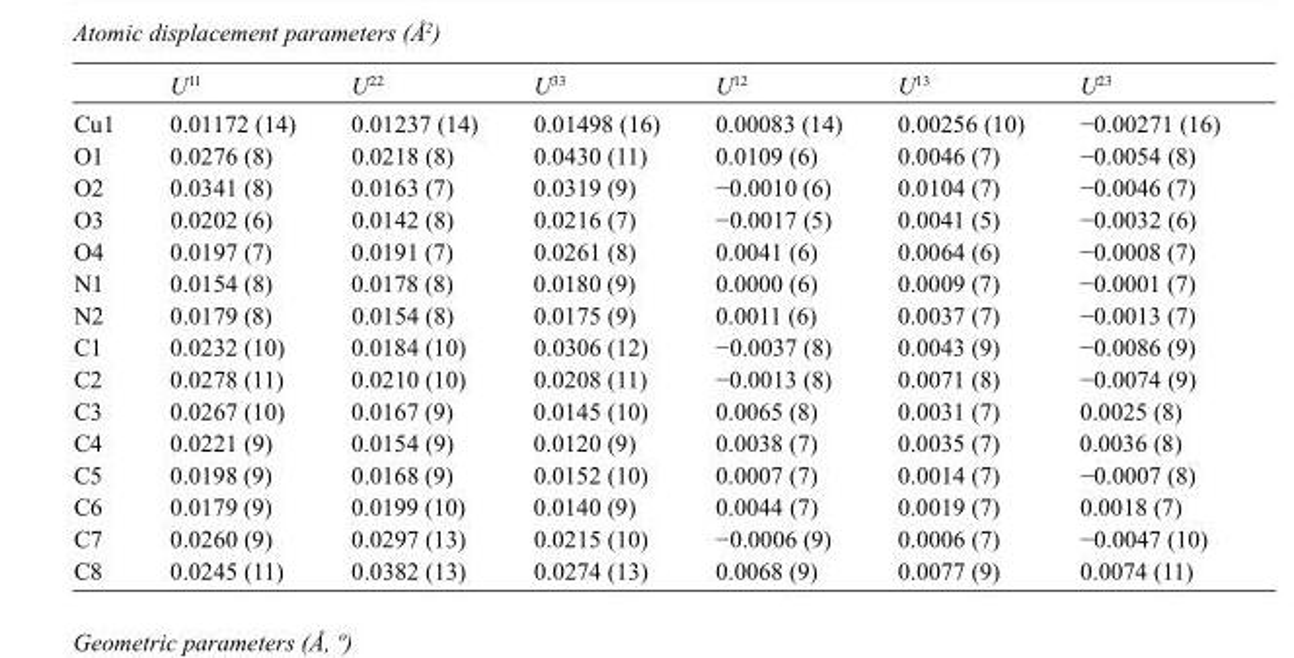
<table><thead><tr><td></td><td>U<sup>11</sup></td><td>U<sup>22</sup></td><td>U<sup>33</sup></td><td>U<sup>12</sup></td><td>U<sup>13</sup></td><td>U<sup>23</sup></td></tr></thead><tbody><tr><td>Cu1</td><td>0.01172 (14)</td><td>0.01237 (14)</td><td>0.01498 (16)</td><td>0.00083 (14)</td><td>0.00256 (10)</td><td>−0.00271 (16)</td></tr><tr><td>O1</td><td>0.0276 (8)</td><td>0.0218 (8)</td><td>0.0430 (11)</td><td>0.0109 (6)</td><td>0.0046 (7)</td><td>−0.0054 (8)</td></tr><tr><td>O2</td><td>0.0341 (8)</td><td>0.0163 (7)</td><td>0.0319 (9)</td><td>−0.0010 (6)</td><td>0.0104 (7)</td><td>−0.0046 (7)</td></tr><tr><td>O3</td><td>0.0202 (6)</td><td>0.0142 (8)</td><td>0.0216 (7)</td><td>−0.0017 (5)</td><td>0.0041 (5)</td><td>−0.0032 (6)</td></tr><tr><td>O4</td><td>0.0197 (7)</td><td>0.0191 (7)</td><td>0.0261 (8)</td><td>0.0041 (6)</td><td>0.0064 (6)</td><td>−0.0008 (7)</td></tr><tr><td>N1</td><td>0.0154 (8)</td><td>0.0178 (8)</td><td>0.0180 (9)</td><td>0.0000 (6)</td><td>0.0009 (7)</td><td>−0.0001 (7)</td></tr><tr><td>N2</td><td>0.0179 (8)</td><td>0.0154 (8)</td><td>0.0175 (9)</td><td>0.0011 (6)</td><td>0.0037 (7)</td><td>−0.0013 (7)</td></tr><tr><td>C1</td><td>0.0232 (10)</td><td>0.0184 (10)</td><td>0.0306 (12)</td><td>−0.0037 (8)</td><td>0.0043 (9)</td><td>−0.0086 (9)</td></tr><tr><td>C2</td><td>0.0278 (11)</td><td>0.0210 (10)</td><td>0.0208 (11)</td><td>−0.0013 (8)</td><td>0.0071 (8)</td><td>−0.0074 (9)</td></tr><tr><td>C3</td><td>0.0267 (10)</td><td>0.0167 (9)</td><td>0.0145 (10)</td><td>0.0065 (8)</td><td>0.0031 (7)</td><td>0.0025 (8)</td></tr><tr><td>C4</td><td>0.0221 (9)</td><td>0.0154 (9)</td><td>0.0120 (9)</td><td>0.0038 (7)</td><td>0.0035 (7)</td><td>0.0036 (8)</td></tr><tr><td>C5</td><td>0.0198 (9)</td><td>0.0168 (9)</td><td>0.0152 (10)</td><td>0.0007 (7)</td><td>0.0014 (7)</td><td>−0.0007 (8)</td></tr><tr><td>C6</td><td>0.0179 (9)</td><td>0.0199 (10)</td><td>0.0140 (9)</td><td>0.0044 (7)</td><td>0.0019 (7)</td><td>0.0018 (7)</td></tr><tr><td>C7</td><td>0.0260 (9)</td><td>0.0297 (13)</td><td>0.0215 (10)</td><td>−0.0006 (9)</td><td>0.0006 (7)</td><td>−0.0047 (10)</td></tr><tr><td>C8</td><td>0.0245 (11)</td><td>0.0382 (13)</td><td>0.0274 (13)</td><td>0.0068 (9)</td><td>0.0077 (9)</td><td>0.0074 (11)</td></tr></tbody></table>